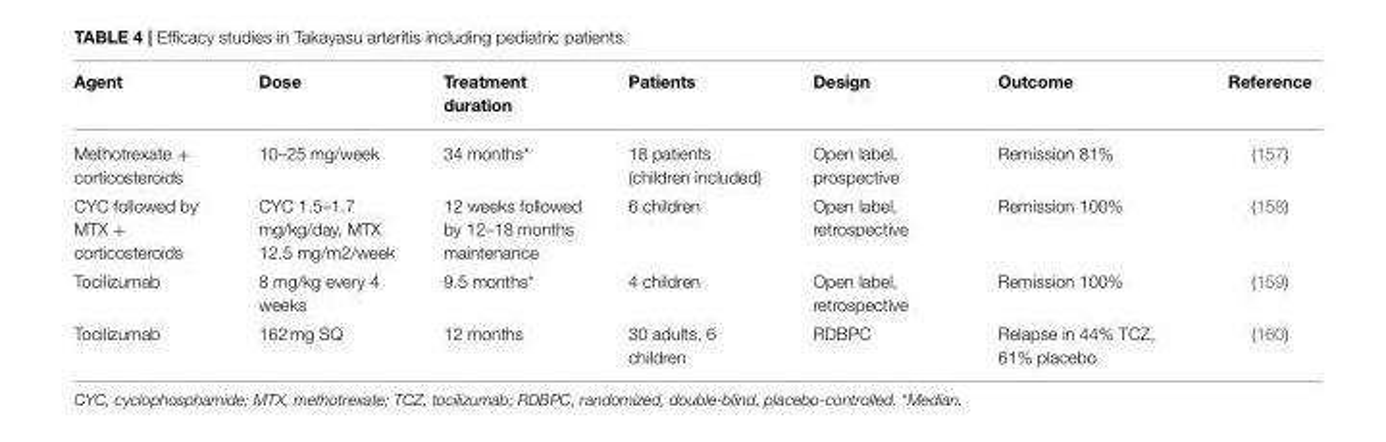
<table><thead><tr><td>Agent</td><td>Dose</td><td>Treatment duration</td><td>Patients</td><td>Design</td><td>Outcome</td><td>Reference</td></tr></thead><tbody><tr><td>Methotrexate + corticosteroids</td><td>10–25 mg/week</td><td>34 months*</td><td>18 patients (children included)</td><td>Open label, prospective</td><td>Remission 81%</td><td>(157)</td></tr><tr><td>CYC followed by MTX + corticosteroids</td><td>CYC 1.5–1.7 mg/kg/day, MTX 12.5 mg/m2/week</td><td>12 weeks followed by 12–18 months maintenance</td><td>6 children</td><td>Open label, retrospective</td><td>Remission 100%</td><td>(158)</td></tr><tr><td>Tocilizumab</td><td>8 mg/kg every 4 weeks</td><td>9.5 months*</td><td>4 children</td><td>Open label, retrospective</td><td>Remission 100%</td><td>(159)</td></tr><tr><td>Tocilizumab</td><td>162 mg SQ</td><td>12 months</td><td>30 adults, 6 children</td><td>RDBPC</td><td>Relapse in 44% TCZ, 61% placebo</td><td>(160)</td></tr></tbody></table>